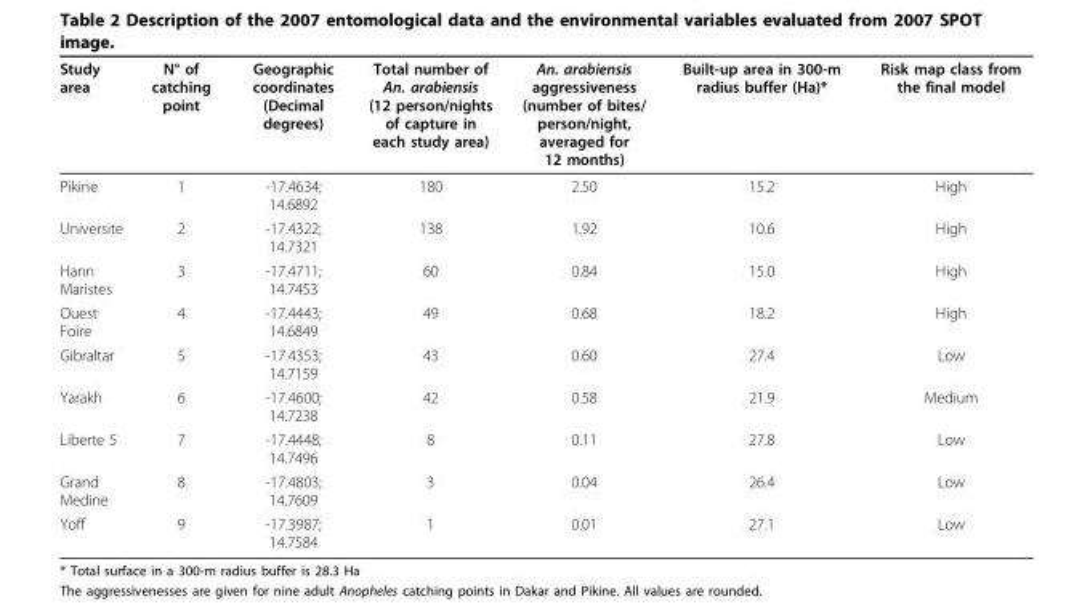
<table><thead><tr><td>Study area</td><td>N° of catching point</td><td>Geographic coordinates (Decimal degrees)</td><td>Total number of An. arabiensis (12 person/nights of capture in each study area)</td><td>An. arabiensis aggressiveness (number of bites/ person/night, averaged for 12 months)</td><td>Built-up area in 300-m radius buffer (Ha)*</td><td>Risk map class from the final model</td></tr></thead><tbody><tr><td>Pikine</td><td>1</td><td>-17.4634; 14.6892</td><td>180</td><td>2.50</td><td>15.2</td><td>High</td></tr><tr><td>Universite</td><td>2</td><td>-17.4322; 14.7321</td><td>138</td><td>1.92</td><td>10.6</td><td>High</td></tr><tr><td>Hann Maristes</td><td>3</td><td>-17.4711; 14.7453</td><td>60</td><td>0.84</td><td>15.0</td><td>High</td></tr><tr><td>Ouest Foire</td><td>4</td><td>-17.4443; 14.6849</td><td>49</td><td>0.68</td><td>18.2</td><td>High</td></tr><tr><td>Gibraltar</td><td>5</td><td>-17.4353; 14.7159</td><td>43</td><td>0.60</td><td>27.4</td><td>Low</td></tr><tr><td>Yarakh</td><td>6</td><td>-17.4600; 14.7238</td><td>42</td><td>0.58</td><td>21.9</td><td>Medium</td></tr><tr><td>Liberte 5</td><td>7</td><td>-17.4448; 14.7496</td><td>8</td><td>0.11</td><td>27.8</td><td>Low</td></tr><tr><td>Grand Medine</td><td>8</td><td>-17.4803; 14.7609</td><td>3</td><td>0.04</td><td>26.4</td><td>Low</td></tr><tr><td>Yoff</td><td>9</td><td>-17.3987; 14.7584</td><td>1</td><td>0.01</td><td>27.1</td><td>Low</td></tr></tbody></table>